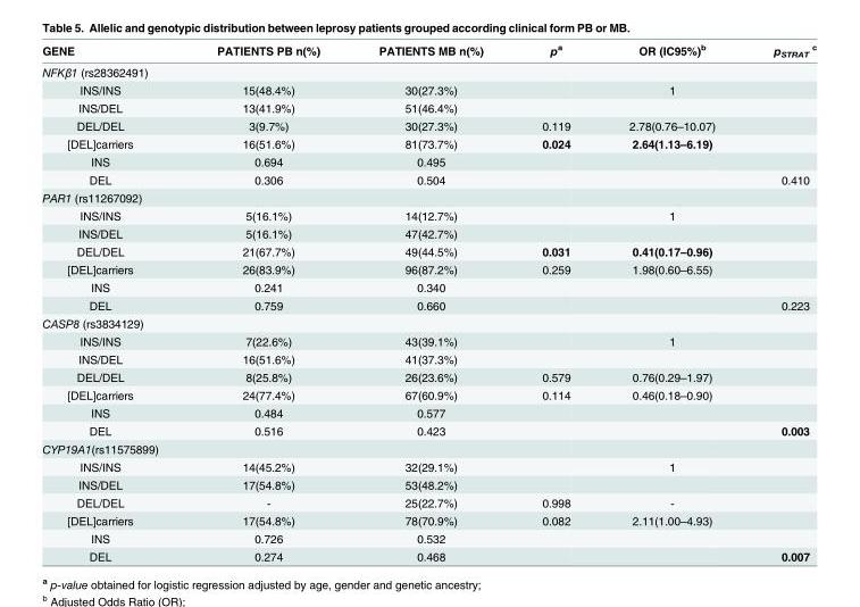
<table><thead><tr><td>GENE</td><td>PATIENTS PB n(%)</td><td>PATIENTS MB n(%)</td><td>p<sup>a</sup></td><td>OR (IC95%)<sup>b</sup></td><td>p<sub>STRAT</sub> <sup>c</sup></td></tr></thead><tbody><tr><td colspan="6">NFKβ1 (rs28362491)</td></tr><tr><td>INS/INS</td><td>15(48.4%)</td><td>30(27.3%)</td><td></td><td>1</td><td></td></tr><tr><td>INS/DEL</td><td>13(41.9%)</td><td>51(46.4%)</td><td></td><td></td><td></td></tr><tr><td>DEL/DEL</td><td>3(9.7%)</td><td>30(27.3%)</td><td>0.119</td><td>2.78(0.76–10.07)</td><td></td></tr><tr><td>[DEL]carriers</td><td>16(51.6%)</td><td>81(73.7%)</td><td>0.024</td><td>2.64(1.13–6.19)</td><td></td></tr><tr><td>INS</td><td>0.694</td><td>0.495</td><td></td><td></td><td></td></tr><tr><td>DEL</td><td>0.306</td><td>0.504</td><td></td><td></td><td>0.410</td></tr><tr><td colspan="6">PAR1 (rs11267092)</td></tr><tr><td>INS/INS</td><td>5(16.1%)</td><td>14(12.7%)</td><td></td><td>1</td><td></td></tr><tr><td>INS/DEL</td><td>5(16.1%)</td><td>47(42.7%)</td><td></td><td></td><td></td></tr><tr><td>DEL/DEL</td><td>21(67.7%)</td><td>49(44.5%)</td><td>0.031</td><td>0.41(0.17–0.96)</td><td></td></tr><tr><td>[DEL]carriers</td><td>26(83.9%)</td><td>96(87.2%)</td><td>0.259</td><td>1.98(0.60–6.55)</td><td></td></tr><tr><td>INS</td><td>0.241</td><td>0.340</td><td></td><td></td><td></td></tr><tr><td>DEL</td><td>0.759</td><td>0.660</td><td></td><td></td><td>0.223</td></tr><tr><td colspan="6">CASP8 (rs3834129)</td></tr><tr><td>INS/INS</td><td>7(22.6%)</td><td>43(39.1%)</td><td></td><td>1</td><td></td></tr><tr><td>INS/DEL</td><td>16(51.6%)</td><td>41(37.3%)</td><td></td><td></td><td></td></tr><tr><td>DEL/DEL</td><td>8(25.8%)</td><td>26(23.6%)</td><td>0.579</td><td>0.76(0.29–1.97)</td><td></td></tr><tr><td>[DEL]carriers</td><td>24(77.4%)</td><td>67(60.9%)</td><td>0.114</td><td>0.46(0.18–0.90)</td><td></td></tr><tr><td>INS</td><td>0.484</td><td>0.577</td><td></td><td></td><td></td></tr><tr><td>DEL</td><td>0.516</td><td>0.423</td><td></td><td></td><td>0.003</td></tr><tr><td colspan="6">CYP19A1(rs11575899)</td></tr><tr><td>INS/INS</td><td>14(45.2%)</td><td>32(29.1%)</td><td></td><td>1</td><td></td></tr><tr><td>INS/DEL</td><td>17(54.8%)</td><td>53(48.2%)</td><td></td><td></td><td></td></tr><tr><td>DEL/DEL</td><td>-</td><td>25(22.7%)</td><td>0.998</td><td>-</td><td></td></tr><tr><td>[DEL]carriers</td><td>17(54.8%)</td><td>78(70.9%)</td><td>0.082</td><td>2.11(1.00–4.93)</td><td></td></tr><tr><td>INS</td><td>0.726</td><td>0.532</td><td></td><td></td><td></td></tr><tr><td>DEL</td><td>0.274</td><td>0.468</td><td></td><td></td><td>0.007</td></tr></tbody></table>